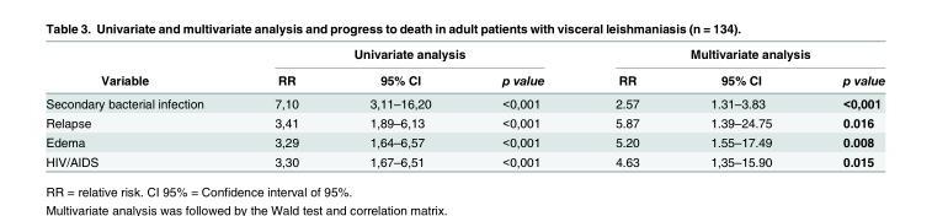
<table><thead><tr><td rowspan="2">Variable</td><td colspan="3">Univariate analysis</td><td colspan="3">Multivariate analysis</td></tr><tr><td>RR</td><td>95% CI</td><td>p value</td><td>RR</td><td>95% CI</td><td>p value</td></tr></thead><tbody><tr><td>Secondary bacterial infection</td><td>7,10</td><td>3,11–16,20</td><td>&lt;0,001</td><td>2.57</td><td>1.31–3.83</td><td>&lt;0,001</td></tr><tr><td>Relapse</td><td>3,41</td><td>1,89–6,13</td><td>&lt;0,001</td><td>5.87</td><td>1.39–24.75</td><td>0.016</td></tr><tr><td>Edema</td><td>3,29</td><td>1,64–6,57</td><td>&lt;0,001</td><td>5.20</td><td>1.55–17.49</td><td>0.008</td></tr><tr><td>HIV/AIDS</td><td>3,30</td><td>1,67–6,51</td><td>&lt;0,001</td><td>4.63</td><td>1,35–15.90</td><td>0.015</td></tr></tbody></table>